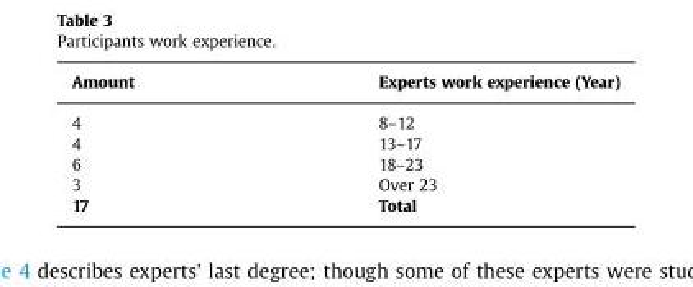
<table><thead><tr><td>Amount</td><td>Experts work experience (Year)</td></tr></thead><tbody><tr><td>4</td><td>8–12</td></tr><tr><td>4</td><td>13–17</td></tr><tr><td>6</td><td>18–23</td></tr><tr><td>3</td><td>Over 23</td></tr><tr><td>17</td><td>Total</td></tr></tbody></table>